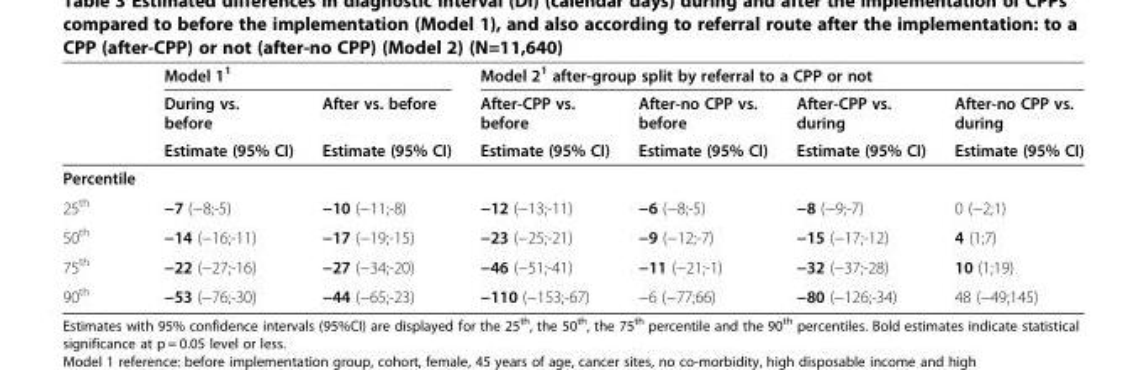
<table><thead><tr><td rowspan="3"></td><td colspan="2">Model 1<sup>1</sup></td><td colspan="4">Model 2<sup>1</sup> after-group split by referral to a CPP or not</td></tr><tr><td rowspan="2">During vs. before Estimate (95% CI)</td><td rowspan="2">After vs. before Estimate (95% CI)</td><td rowspan="2">After-CPP vs. before Estimate (95% CI)</td><td rowspan="2">After-no CPP vs. before Estimate (95% CI)</td><td rowspan="2">After-CPP vs. during Estimate (95% CI)</td><td rowspan="2">After-no CPP vs. during Estimate (95% CI)</td></tr><tr></tr></thead><tbody><tr><td colspan="7">Percentile</td></tr><tr><td>25<sup>th</sup></td><td>−7 (−8;-5)</td><td>−10 (−11;-8)</td><td>−12 (−13;-11)</td><td>−6 (−8;-5)</td><td>−8 (−9;-7)</td><td>0 (−2;1)</td></tr><tr><td>50<sup>th</sup></td><td>−14 (−16;-11)</td><td>−17 (−19;-15)</td><td>−23 (−25;-21)</td><td>−9 (−12;-7)</td><td>−15 (−17;-12)</td><td>4 (1;7)</td></tr><tr><td>75<sup>th</sup></td><td>−22 (−27;-16)</td><td>−27 (−34;-20)</td><td>−46 (−51;-41)</td><td>−11 (−21;-1)</td><td>−32 (−37;-28)</td><td>10 (1;19)</td></tr><tr><td>90<sup>th</sup></td><td>−53 (−76;-30)</td><td>−44 (−65;-23)</td><td>−110 (−153;-67)</td><td>−6 (−77;66)</td><td>−80 (−126;-34)</td><td>48 (−49;145)</td></tr></tbody></table>